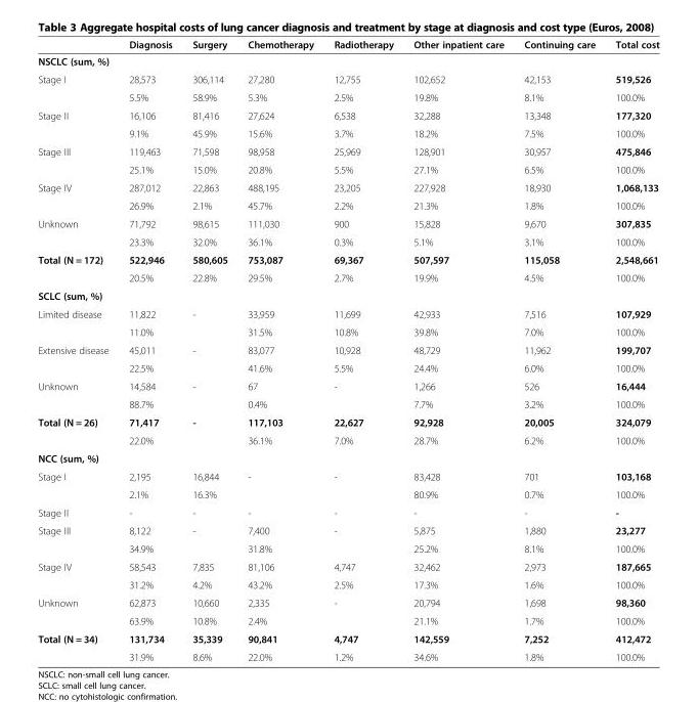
<table><thead><tr><td></td><td>Diagnosis</td><td>Surgery</td><td>Chemotherapy</td><td>Radiotherapy</td><td>Other inpatient care</td><td>Continuing care</td><td>Total cost</td></tr></thead><tbody><tr><td colspan="8">NSCLC (sum, %)</td></tr><tr><td rowspan="2">Stage I</td><td>28,573</td><td>306,114</td><td>27,280</td><td>12,755</td><td>102,652</td><td>42,153</td><td>519,526</td></tr><tr><td>5.5%</td><td>58.9%</td><td>5.3%</td><td>2.5%</td><td>19.8%</td><td>8.1%</td><td>100.0%</td></tr><tr><td rowspan="2">Stage II</td><td>16,106</td><td>81,416</td><td>27,624</td><td>6,538</td><td>32,288</td><td>13,348</td><td>177,320</td></tr><tr><td>9.1%</td><td>45.9%</td><td>15.6%</td><td>3.7%</td><td>18.2%</td><td>7.5%</td><td>100.0%</td></tr><tr><td rowspan="2">Stage III</td><td>119,463</td><td>71,598</td><td>98,958</td><td>25,969</td><td>128,901</td><td>30,957</td><td>475,846</td></tr><tr><td>25.1%</td><td>15.0%</td><td>20.8%</td><td>5.5%</td><td>27.1%</td><td>6.5%</td><td>100.0%</td></tr><tr><td rowspan="2">Stage IV</td><td>287,012</td><td>22,863</td><td>488,195</td><td>23,205</td><td>227,928</td><td>18,930</td><td>1,068,133</td></tr><tr><td>26.9%</td><td>2.1%</td><td>45.7%</td><td>2.2%</td><td>21.3%</td><td>1.8%</td><td>100.0%</td></tr><tr><td rowspan="2">Unknown</td><td>71,792</td><td>98,615</td><td>111,030</td><td>900</td><td>15,828</td><td>9,670</td><td>307,835</td></tr><tr><td>23.3%</td><td>32.0%</td><td>36.1%</td><td>0.3%</td><td>5.1%</td><td>3.1%</td><td>100.0%</td></tr><tr><td rowspan="2">Total (N = 172)</td><td>522,946</td><td>580,605</td><td>753,087</td><td>69,367</td><td>507,597</td><td>115,058</td><td>2,548,661</td></tr><tr><td>20.5%</td><td>22.8%</td><td>29.5%</td><td>2.7%</td><td>19.9%</td><td>4.5%</td><td>100.0%</td></tr><tr><td colspan="8">SCLC (sum, %)</td></tr><tr><td rowspan="2">Limited disease</td><td>11,822</td><td>-</td><td>33,959</td><td>11,699</td><td>42,933</td><td>7,516</td><td>107,929</td></tr><tr><td>11.0%</td><td></td><td>31.5%</td><td>10.8%</td><td>39.8%</td><td>7.0%</td><td>100.0%</td></tr><tr><td rowspan="2">Extensive disease</td><td>45,011</td><td>-</td><td>83,077</td><td>10,928</td><td>48,729</td><td>11,962</td><td>199,707</td></tr><tr><td>22.5%</td><td></td><td>41.6%</td><td>5.5%</td><td>24.4%</td><td>6.0%</td><td>100.0%</td></tr><tr><td rowspan="2">Unknown</td><td>14,584</td><td>-</td><td>67</td><td>-</td><td>1,266</td><td>526</td><td>16,444</td></tr><tr><td>88.7%</td><td></td><td>0.4%</td><td></td><td>7.7%</td><td>3.2%</td><td>100.0%</td></tr><tr><td rowspan="2">Total (N = 26)</td><td>71,417</td><td>-</td><td>117,103</td><td>22,627</td><td>92,928</td><td>20,005</td><td>324,079</td></tr><tr><td>22.0%</td><td></td><td>36.1%</td><td>7.0%</td><td>28.7%</td><td>6.2%</td><td>100.0%</td></tr><tr><td colspan="8">NCC (sum, %)</td></tr><tr><td rowspan="2">Stage I</td><td>2,195</td><td>16,844</td><td>-</td><td>-</td><td>83,428</td><td>701</td><td>103,168</td></tr><tr><td>2.1%</td><td>16.3%</td><td></td><td></td><td>80.9%</td><td>0.7%</td><td>100.0%</td></tr><tr><td>Stage II</td><td>-</td><td>-</td><td>-</td><td>-</td><td>-</td><td>-</td><td>-</td></tr><tr><td rowspan="2">Stage III</td><td>8,122</td><td>-</td><td>7,400</td><td>-</td><td>5,875</td><td>1,880</td><td>23,277</td></tr><tr><td>34.9%</td><td></td><td>31.8%</td><td></td><td>25.2%</td><td>8.1%</td><td>100.0%</td></tr><tr><td rowspan="2">Stage IV</td><td>58,543</td><td>7,835</td><td>81,106</td><td>4,747</td><td>32,462</td><td>2,973</td><td>187,665</td></tr><tr><td>31.2%</td><td>4.2%</td><td>43.2%</td><td>2.5%</td><td>17.3%</td><td>1.6%</td><td>100.0%</td></tr><tr><td rowspan="2">Unknown</td><td>62,873</td><td>10,660</td><td>2,335</td><td>-</td><td>20,794</td><td>1,698</td><td>98,360</td></tr><tr><td>63.9%</td><td>10.8%</td><td>2.4%</td><td></td><td>21.1%</td><td>1.7%</td><td>100.0%</td></tr><tr><td rowspan="2">Total (N = 34)</td><td>131,734</td><td>35,339</td><td>90,841</td><td>4,747</td><td>142,559</td><td>7,252</td><td>412,472</td></tr><tr><td>31.9%</td><td>8.6%</td><td>22.0%</td><td>1.2%</td><td>34.6%</td><td>1.8%</td><td>100.0%</td></tr></tbody></table>